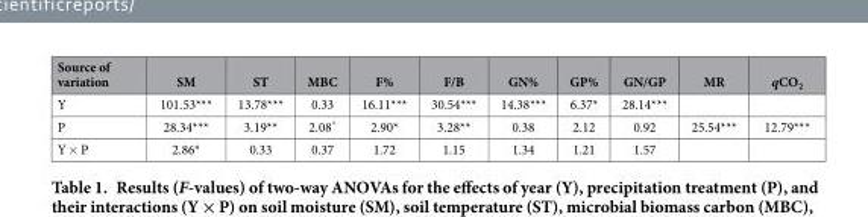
<table><thead><tr><td>Source of variation</td><td>SM</td><td>ST</td><td>MBC</td><td>F%</td><td>F/B</td><td>GN%</td><td>GP%</td><td>GN/GP</td><td>MR</td><td>qCO<sub>2</sub></td></tr></thead><tbody><tr><td>Y</td><td>101.53***</td><td>13.78***</td><td>0.33</td><td>16.11***</td><td>30.54***</td><td>14.38***</td><td>6.37*</td><td>28.14***</td><td></td><td></td></tr><tr><td>P</td><td>28.34***</td><td>3.19**</td><td>2.08^</td><td>2.90*</td><td>3.28**</td><td>0.38</td><td>2.12</td><td>0.92</td><td>25.54***</td><td>12.79***</td></tr><tr><td>Y × P</td><td>2.86*</td><td>0.33</td><td>0.37</td><td>1.72</td><td>1.15</td><td>1.34</td><td>1.21</td><td>1.57</td><td></td><td></td></tr></tbody></table>